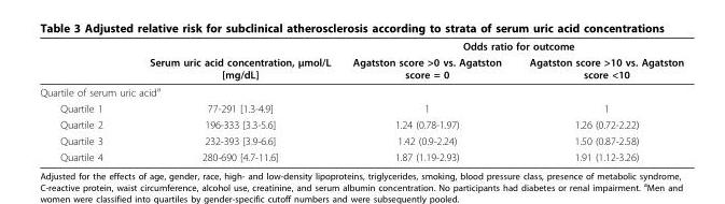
<table><thead><tr><td rowspan="2"></td><td rowspan="2">Serum uric acid concentration, μmol/L [mg/dL]</td><td colspan="2">Odds ratio for outcome</td></tr><tr><td>Agatston score &gt;0 vs. Agatston score = 0</td><td>Agatston score &gt;10 vs. Agatston score &lt;10</td></tr></thead><tbody><tr><td colspan="4">Quartile of serum uric acid<sup>a</sup></td></tr><tr><td>Quartile 1</td><td>77-291 [1.3-4.9]</td><td>1</td><td>1</td></tr><tr><td>Quartile 2</td><td>196-333 [3.3-5.6]</td><td>1.24 (0.78-1.97)</td><td>1.26 (0.72-2.22)</td></tr><tr><td>Quartile 3</td><td>232-393 [3.9-6.6]</td><td>1.42 (0.9-2.24)</td><td>1.50 (0.87-2.58)</td></tr><tr><td>Quartile 4</td><td>280-690 [4.7-11.6]</td><td>1.87 (1.19-2.93)</td><td>1.91 (1.12-3.26)</td></tr></tbody></table>